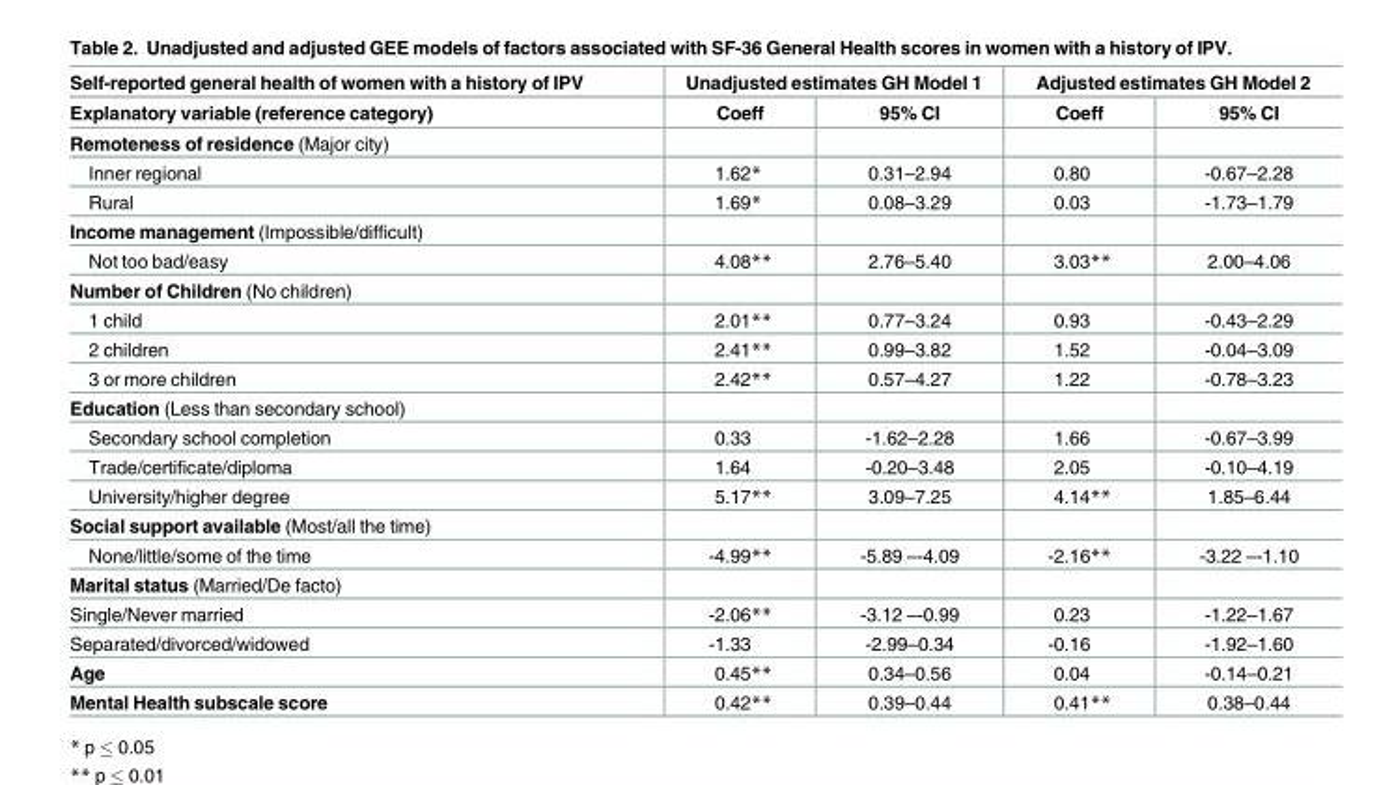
<table><thead><tr><td rowspan="2">Self-reported general health of women with a history of IPV Explanatory variable (reference category)</td><td colspan="2">Unadjusted estimates GH Model 1</td><td colspan="2">Adjusted estimates GH Model 2</td></tr><tr><td>Coeff</td><td>95% CI</td><td>Coeff</td><td>95% CI</td></tr></thead><tbody><tr><td colspan="5">Remoteness of residence (Major city)</td></tr><tr><td>Inner regional</td><td>1.62*</td><td>0.31–2.94</td><td>0.80</td><td>-0.67–2.28</td></tr><tr><td>Rural</td><td>1.69*</td><td>0.08–3.29</td><td>0.03</td><td>-1.73–1.79</td></tr><tr><td colspan="5">Income management (Impossible/difficult)</td></tr><tr><td>Not too bad/easy</td><td>4.08**</td><td>2.76–5.40</td><td>3.03**</td><td>2.00–4.06</td></tr><tr><td colspan="5">Number of Children (No children)</td></tr><tr><td>1 child</td><td>2.01**</td><td>0.77–3.24</td><td>0.93</td><td>-0.43–2.29</td></tr><tr><td>2 children</td><td>2.41**</td><td>0.99–3.82</td><td>1.52</td><td>-0.04–3.09</td></tr><tr><td>3 or more children</td><td>2.42**</td><td>0.57–4.27</td><td>1.22</td><td>-0.78–3.23</td></tr><tr><td colspan="5">Education (Less than secondary school)</td></tr><tr><td>Secondary school completion</td><td>0.33</td><td>-1.62–2.28</td><td>1.66</td><td>-0.67–3.99</td></tr><tr><td>Trade/certificate/diploma</td><td>1.64</td><td>-0.20–3.48</td><td>2.05</td><td>-0.10–4.19</td></tr><tr><td>University/higher degree</td><td>5.17**</td><td>3.09–7.25</td><td>4.14**</td><td>1.85–6.44</td></tr><tr><td colspan="5">Social support available (Most/all the time)</td></tr><tr><td>None/little/some of the time</td><td>-4.99**</td><td>-5.89 –-4.09</td><td>-2.16**</td><td>-3.22 –-1.10</td></tr><tr><td colspan="5">Marital status (Married/De facto)</td></tr><tr><td>Single/Never married</td><td>-2.06**</td><td>-3.12 –-0.99</td><td>0.23</td><td>-1.22–1.67</td></tr><tr><td>Separated/divorced/widowed</td><td>-1.33</td><td>-2.99–0.34</td><td>-0.16</td><td>-1.92–1.60</td></tr><tr><td>Age</td><td>0.45**</td><td>0.34–0.56</td><td>0.04</td><td>-0.14–0.21</td></tr><tr><td>Mental Health subscale score</td><td>0.42**</td><td>0.39–0.44</td><td>0.41**</td><td>0.38–0.44</td></tr></tbody></table>